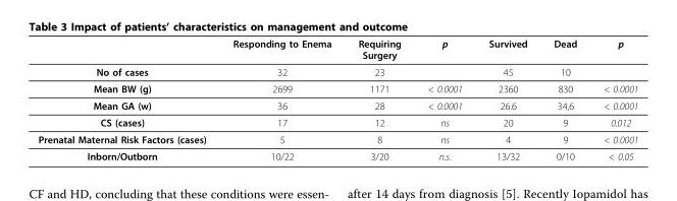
<table><thead><tr><td></td><td>Responding to Enema</td><td>Requiring Surgery</td><td>p</td><td>Survived</td><td>Dead</td><td>p</td></tr></thead><tbody><tr><td>No of cases</td><td>32</td><td>23</td><td></td><td>45</td><td>10</td><td></td></tr><tr><td>Mean BW (g)</td><td>2699</td><td>1171</td><td>&lt; 0.0001</td><td>2360</td><td>830</td><td>&lt; 0.0001</td></tr><tr><td>Mean GA (w)</td><td>36</td><td>28</td><td>&lt; 0.0001</td><td>26.6</td><td>34,6</td><td>&lt; 0.0001</td></tr><tr><td>CS (cases)</td><td>17</td><td>12</td><td>ns</td><td>20</td><td>9</td><td>0.012</td></tr><tr><td>Prenatal Maternal Risk Factors (cases)</td><td>5</td><td>8</td><td>ns</td><td>4</td><td>9</td><td>&lt; 0.0001</td></tr><tr><td>Inborn/Outborn</td><td>10/22</td><td>3/20</td><td>n.s.</td><td>13/32</td><td>0/10</td><td>&lt; 0.05</td></tr></tbody></table>